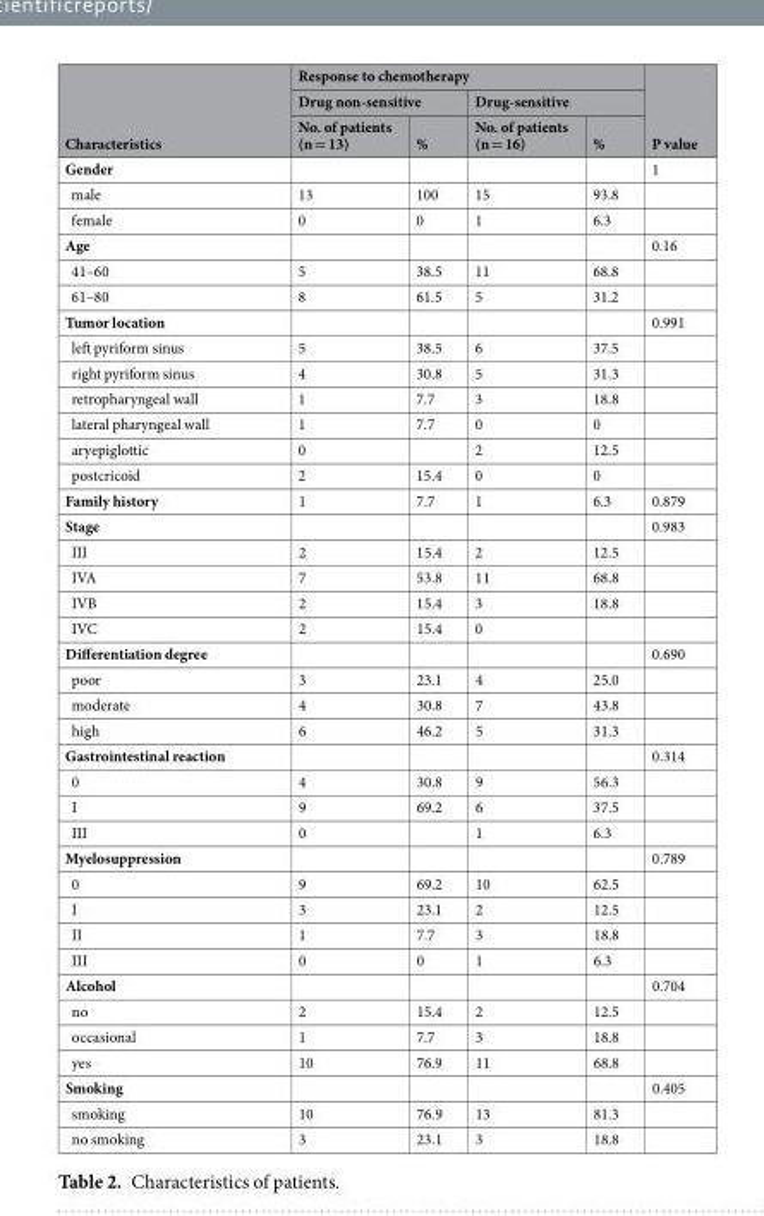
<table><thead><tr><td rowspan="3">Characteristics</td><td colspan="4">Response to chemotherapy</td><td rowspan="3">P value</td></tr><tr><td colspan="2">Drug non-sensitive</td><td colspan="2">Drug-sensitive</td></tr><tr><td>No. of patients (n = 13)</td><td>%</td><td>No. of patients (n = 16)</td><td>%</td></tr></thead><tbody><tr><td>Gender</td><td></td><td></td><td></td><td></td><td>1</td></tr><tr><td>male</td><td>13</td><td>100</td><td>15</td><td>93.8</td><td></td></tr><tr><td>female</td><td>0</td><td>0</td><td>1</td><td>6.3</td><td></td></tr><tr><td>Age</td><td></td><td></td><td></td><td></td><td>0.16</td></tr><tr><td>41–60</td><td>5</td><td>38.5</td><td>11</td><td>68.8</td><td></td></tr><tr><td>61–80</td><td>8</td><td>61.5</td><td>5</td><td>31.2</td><td></td></tr><tr><td>Tumor location</td><td></td><td></td><td></td><td></td><td>0.991</td></tr><tr><td>left pyriform sinus</td><td>5</td><td>38.5</td><td>6</td><td>37.5</td><td></td></tr><tr><td>right pyriform sinus</td><td>4</td><td>30.8</td><td>5</td><td>31.3</td><td></td></tr><tr><td>retropharyngeal wall</td><td>1</td><td>7.7</td><td>3</td><td>18.8</td><td></td></tr><tr><td>lateral pharyngeal wall</td><td>1</td><td>7.7</td><td>0</td><td>0</td><td></td></tr><tr><td>aryepiglottic</td><td>0</td><td></td><td>2</td><td>12.5</td><td></td></tr><tr><td>postcricoid</td><td>2</td><td>15.4</td><td>0</td><td>0</td><td></td></tr><tr><td>Family history</td><td>1</td><td>7.7</td><td>1</td><td>6.3</td><td>0.879</td></tr><tr><td>Stage</td><td></td><td></td><td></td><td></td><td>0.983</td></tr><tr><td>III</td><td>2</td><td>15.4</td><td>2</td><td>12.5</td><td></td></tr><tr><td>IVA</td><td>7</td><td>53.8</td><td>11</td><td>68.8</td><td></td></tr><tr><td>IVB</td><td>2</td><td>15.4</td><td>3</td><td>18.8</td><td></td></tr><tr><td>IVC</td><td>2</td><td>15.4</td><td>0</td><td></td><td></td></tr><tr><td>Differentiation degree</td><td></td><td></td><td></td><td></td><td>0.690</td></tr><tr><td>poor</td><td>3</td><td>23.1</td><td>4</td><td>25.0</td><td></td></tr><tr><td>moderate</td><td>4</td><td>30.8</td><td>7</td><td>43.8</td><td></td></tr><tr><td>high</td><td>6</td><td>46.2</td><td>5</td><td>31.3</td><td></td></tr><tr><td>Gastrointestinal reaction</td><td></td><td></td><td></td><td></td><td>0.314</td></tr><tr><td>0</td><td>4</td><td>30.8</td><td>9</td><td>56.3</td><td></td></tr><tr><td>I</td><td>9</td><td>69.2</td><td>6</td><td>37.5</td><td></td></tr><tr><td>III</td><td>0</td><td></td><td>1</td><td>6.3</td><td></td></tr><tr><td>Myelosuppression</td><td></td><td></td><td></td><td></td><td>0.789</td></tr><tr><td>0</td><td>9</td><td>69.2</td><td>10</td><td>62.5</td><td></td></tr><tr><td>I</td><td>3</td><td>23.1</td><td>2</td><td>12.5</td><td></td></tr><tr><td>II</td><td>1</td><td>7.7</td><td>3</td><td>18.8</td><td></td></tr><tr><td>III</td><td>0</td><td>0</td><td>1</td><td>6.3</td><td></td></tr><tr><td>Alcohol</td><td></td><td></td><td></td><td></td><td>0.704</td></tr><tr><td>no</td><td>2</td><td>15.4</td><td>2</td><td>12.5</td><td></td></tr><tr><td>occasional</td><td>1</td><td>7.7</td><td>3</td><td>18.8</td><td></td></tr><tr><td>yes</td><td>10</td><td>76.9</td><td>11</td><td>68.8</td><td></td></tr><tr><td>Smoking</td><td></td><td></td><td></td><td></td><td>0.405</td></tr><tr><td>smoking</td><td>10</td><td>76.9</td><td>13</td><td>81.3</td><td></td></tr><tr><td>no smoking</td><td>3</td><td>23.1</td><td>3</td><td>18.8</td><td></td></tr></tbody></table>